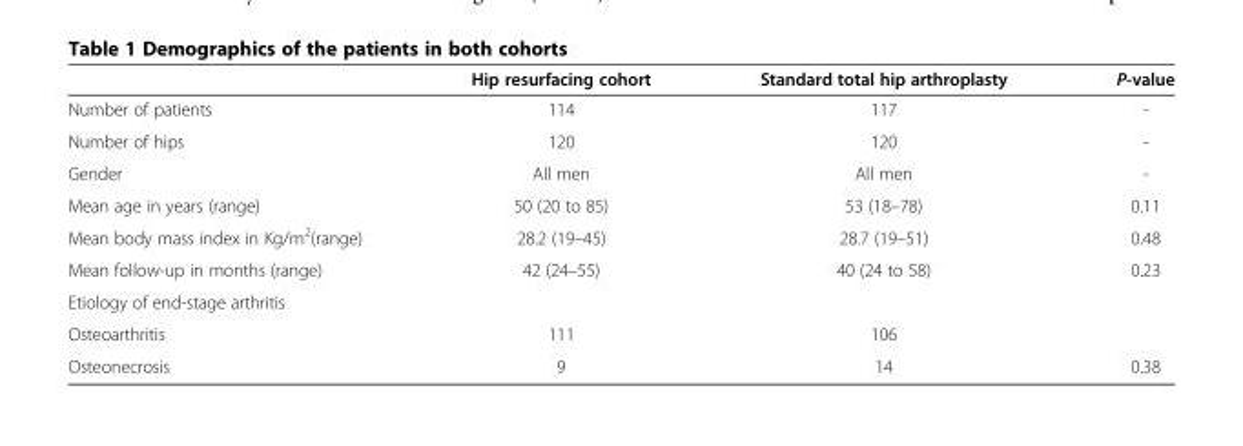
<table><thead><tr><td></td><td>Hip resurfacing cohort</td><td>Standard total hip arthroplasty</td><td>P-value</td></tr></thead><tbody><tr><td>Number of patients</td><td>114</td><td>117</td><td>-</td></tr><tr><td>Number of hips</td><td>120</td><td>120</td><td>-</td></tr><tr><td>Gender</td><td>All men</td><td>All men</td><td>-</td></tr><tr><td>Mean age in years (range)</td><td>50 (20 to 85)</td><td>53 (18–78)</td><td>0.11</td></tr><tr><td>Mean body mass index in Kg/m<sup>2</sup>(range)</td><td>28.2 (19–45)</td><td>28.7 (19–51)</td><td>0.48</td></tr><tr><td>Mean follow-up in months (range)</td><td>42 (24–55)</td><td>40 (24 to 58)</td><td>0.23</td></tr><tr><td colspan="4">Etiology of end-stage arthritis</td></tr><tr><td>Osteoarthritis</td><td>111</td><td>106</td><td></td></tr><tr><td>Osteonecrosis</td><td>9</td><td>14</td><td>0.38</td></tr></tbody></table>